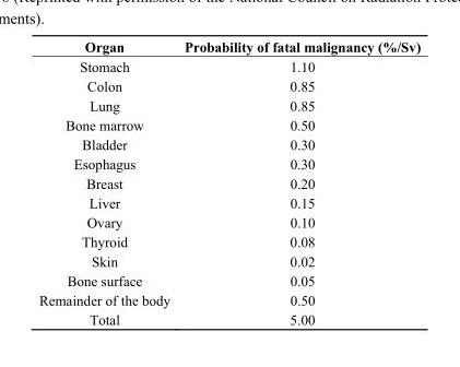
<table><thead><tr><td>Organ</td><td>Probability of fatal malignancy (%/Sv)</td></tr></thead><tbody><tr><td>Stomach</td><td>1.10</td></tr><tr><td>Colon</td><td>0.85</td></tr><tr><td>Lung</td><td>0.85</td></tr><tr><td>Bone marrow</td><td>0.50</td></tr><tr><td>Bladder</td><td>0.30</td></tr><tr><td>Esophagus</td><td>0.30</td></tr><tr><td>Breast</td><td>0.20</td></tr><tr><td>Liver</td><td>0.15</td></tr><tr><td>Ovary</td><td>0.10</td></tr><tr><td>Thyroid</td><td>0.08</td></tr><tr><td>Skin</td><td>0.02</td></tr><tr><td>Bone surface</td><td>0.05</td></tr><tr><td>Remainder of the body</td><td>0.50</td></tr><tr><td>Total</td><td>5.00</td></tr></tbody></table>